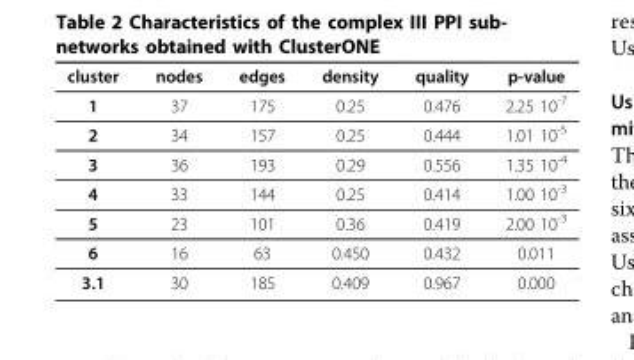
<table><thead><tr><td>cluster</td><td>nodes</td><td>edges</td><td>density</td><td>quality</td><td>p-value</td></tr></thead><tbody><tr><td>1</td><td>37</td><td>175</td><td>0.25</td><td>0.476</td><td>2.25 10<sup>-7</sup></td></tr><tr><td>2</td><td>34</td><td>157</td><td>0.25</td><td>0.444</td><td>1.01 10<sup>-5</sup></td></tr><tr><td>3</td><td>36</td><td>193</td><td>0.29</td><td>0.556</td><td>1.35 10<sup>-4</sup></td></tr><tr><td>4</td><td>33</td><td>144</td><td>0.25</td><td>0.414</td><td>1.00 10<sup>-3</sup></td></tr><tr><td>5</td><td>23</td><td>101</td><td>0.36</td><td>0.419</td><td>2.00 10<sup>-3</sup></td></tr><tr><td>6</td><td>16</td><td>63</td><td>0.450</td><td>0.432</td><td>0.011</td></tr><tr><td>3.1</td><td>30</td><td>185</td><td>0.409</td><td>0.967</td><td>0.000</td></tr></tbody></table>